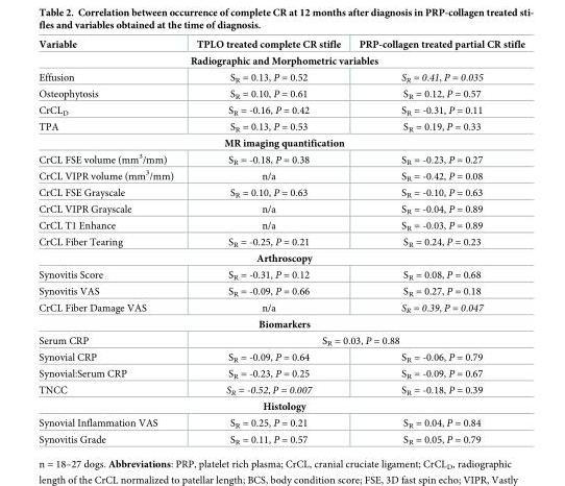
<table><thead><tr><td>Variable</td><td>TPLO treated complete CR stifle</td><td>PRP-collagen treated partial CR stifle</td></tr></thead><tbody><tr><td colspan="3">Radiographic and Morphometric variables</td></tr><tr><td>Effusion</td><td>S<sub>R</sub> = 0.13, P = 0.52</td><td>S<sub>R</sub> = 0.41, P = 0.035</td></tr><tr><td>Osteophytosis</td><td>S<sub>R</sub> = 0.10, P = 0.61</td><td>S<sub>R</sub> = 0.12, P = 0.57</td></tr><tr><td>CrCL<sub>D</sub></td><td>S<sub>R</sub> = -0.16, P = 0.42</td><td>S<sub>R</sub> = -0.31, P = 0.11</td></tr><tr><td>TPA</td><td>S<sub>R</sub> = 0.13, P = 0.53</td><td>S<sub>R</sub> = 0.19, P = 0.33</td></tr><tr><td colspan="3">MR imaging quantification</td></tr><tr><td>CrCL FSE volume (mm<sup>3</sup>/mm)</td><td>S<sub>R</sub> = -0.18, P = 0.38</td><td>S<sub>R</sub> = -0.23, P = 0.27</td></tr><tr><td>CrCL VIPR volume (mm<sup>3</sup>/mm)</td><td>n/a</td><td>S<sub>R</sub> = -0.42, P = 0.08</td></tr><tr><td>CrCL FSE Grayscale</td><td>S<sub>R</sub> = 0.10, P = 0.63</td><td>S<sub>R</sub> = -0.10, P = 0.63</td></tr><tr><td>CrCL VIPR Grayscale</td><td>n/a</td><td>S<sub>R</sub> = -0.04, P = 0.89</td></tr><tr><td>CrCL T1 Enhance</td><td>n/a</td><td>S<sub>R</sub> = -0.03, P = 0.89</td></tr><tr><td>CrCL Fiber Tearing</td><td>S<sub>R</sub> = -0.25, P = 0.21</td><td>S<sub>R</sub> = 0.24, P = 0.23</td></tr><tr><td colspan="3">Arthroscopy</td></tr><tr><td>Synovitis Score</td><td>S<sub>R</sub> = -0.31, P = 0.12</td><td>S<sub>R</sub> = 0.08, P = 0.68</td></tr><tr><td>Synovitis VAS</td><td>S<sub>R</sub> = -0.09, P = 0.66</td><td>S<sub>R</sub> = 0.27, P = 0.18</td></tr><tr><td>CrCL Fiber Damage VAS</td><td>n/a</td><td>S<sub>R</sub> = 0.39, P = 0.047</td></tr><tr><td colspan="3">Biomarkers</td></tr><tr><td>Serum CRP</td><td colspan="2">S<sub>R</sub> = 0.03, P = 0.88</td></tr><tr><td>Synovial CRP</td><td>S<sub>R</sub> = -0.09, P = 0.64</td><td>S<sub>R</sub> = -0.06, P = 0.79</td></tr><tr><td>Synovial:Serum CRP</td><td>S<sub>R</sub> = -0.23, P = 0.25</td><td>S<sub>R</sub> = -0.09, P = 0.67</td></tr><tr><td>TNCC</td><td>S<sub>R</sub> = -0.52, P = 0.007</td><td>S<sub>R</sub> = -0.18, P = 0.39</td></tr><tr><td colspan="3">Histology</td></tr><tr><td>Synovial Inflammation VAS</td><td>S<sub>R</sub> = 0.25, P = 0.21</td><td>S<sub>R</sub> = 0.04, P = 0.84</td></tr><tr><td>Synovitis Grade</td><td>S<sub>R</sub> = 0.11, P = 0.57</td><td>S<sub>R</sub> = 0.05, P = 0.79</td></tr></tbody></table>